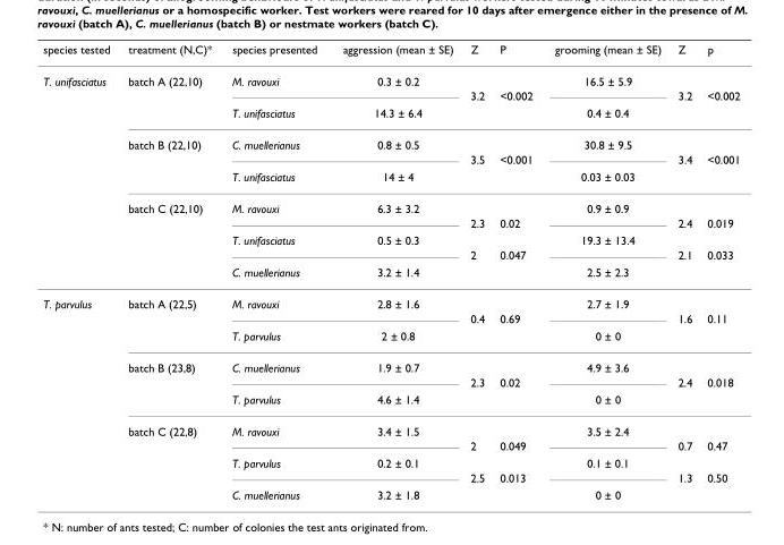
<table><thead><tr><td>species tested</td><td>treatment (N,C)*</td><td>species presented</td><td>aggression (mean ± SE)</td><td>Z</td><td>P</td><td>grooming (mean ± SE)</td><td>Z</td><td>p</td></tr></thead><tbody><tr><td rowspan="11">T. unifasciatus</td><td>batch A (22,10)</td><td>M. ravouxi</td><td>0.3 ± 0.2</td><td></td><td></td><td>16.5 ± 5.9</td><td></td><td></td></tr><tr><td></td><td colspan="2"></td><td>3.2</td><td>&lt;0.002</td><td></td><td>3.2</td><td>&lt;0.002</td></tr><tr><td></td><td>T. unifasciatus</td><td>14.3 ± 6.4</td><td></td><td></td><td>0.4 ± 0.4</td><td></td><td></td></tr><tr><td>batch B (22,10)</td><td>C. muellerianus</td><td>0.8 ± 0.5</td><td></td><td></td><td>30.8 ± 9.5</td><td></td><td></td></tr><tr><td></td><td colspan="2"></td><td>3.5</td><td>&lt;0.001</td><td></td><td>3.4</td><td>&lt;0.001</td></tr><tr><td></td><td>T. unifasciatus</td><td>14 ± 4</td><td></td><td></td><td>0.03 ± 0.03</td><td></td><td></td></tr><tr><td>batch C (22,10)</td><td>M. ravouxi</td><td>6.3 ± 3.2</td><td></td><td></td><td>0.9 ± 0.9</td><td></td><td></td></tr><tr><td></td><td colspan="2"></td><td>2.3</td><td>0.02</td><td></td><td>2.4</td><td>0.019</td></tr><tr><td></td><td>T. unifasciatus</td><td>0.5 ± 0.3</td><td></td><td></td><td>19.3 ± 13.4</td><td></td><td></td></tr><tr><td></td><td colspan="2"></td><td>2</td><td>0.047</td><td></td><td>2.1</td><td>0.033</td></tr><tr><td></td><td>C. muellerianus</td><td>3.2 ± 1.4</td><td></td><td></td><td>2.5 ± 2.3</td><td></td><td></td></tr><tr><td rowspan="11">T. parvulus</td><td>batch A (22,5)</td><td>M. ravouxi</td><td>2.8 ± 1.6</td><td></td><td></td><td>2.7 ± 1.9</td><td></td><td></td></tr><tr><td></td><td colspan="2"></td><td>0.4</td><td>0.69</td><td></td><td>1.6</td><td>0.11</td></tr><tr><td></td><td>T. parvulus</td><td>2 ± 0.8</td><td></td><td></td><td>0 ± 0</td><td></td><td></td></tr><tr><td>batch B (23,8)</td><td>C. muellerianus</td><td>1.9 ± 0.7</td><td></td><td></td><td>4.9 ± 3.6</td><td></td><td></td></tr><tr><td></td><td colspan="2"></td><td>2.3</td><td>0.02</td><td></td><td>2.4</td><td>0.018</td></tr><tr><td></td><td>T. parvulus</td><td>4.6 ± 1.4</td><td></td><td></td><td>0 ± 0</td><td></td><td></td></tr><tr><td>batch C (22,8)</td><td>M. ravouxi</td><td>3.4 ± 1.5</td><td></td><td></td><td>3.5 ± 2.4</td><td></td><td></td></tr><tr><td></td><td colspan="2"></td><td>2</td><td>0.049</td><td></td><td>0.7</td><td>0.47</td></tr><tr><td></td><td>T. parvulus</td><td>0.2 ± 0.1</td><td></td><td></td><td>0.1 ± 0.1</td><td></td><td></td></tr><tr><td></td><td colspan="2"></td><td>2.5</td><td>0.013</td><td></td><td>1.3</td><td>0.50</td></tr><tr><td></td><td>C. muellerianus</td><td>3.2 ± 1.8</td><td></td><td></td><td>0 ± 0</td><td></td><td></td></tr></tbody></table>